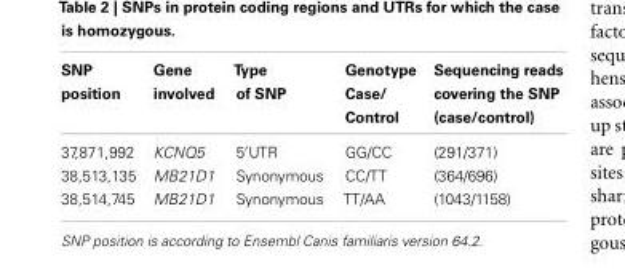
<table><thead><tr><td>SNP position</td><td>Gene involved</td><td>Type of SNP</td><td>Genotype Case/ Control</td><td>Sequencing reads covering the SNP (case/control)</td></tr></thead><tbody><tr><td>37,871,992</td><td>KCNQ5</td><td>5′UTR</td><td>GG/CC</td><td>(291/371)</td></tr><tr><td>38,513,135</td><td>MB21D1</td><td>Synonymous</td><td>CC/TT</td><td>(364/696)</td></tr><tr><td>38,514,745</td><td>MB21D1</td><td>Synonymous</td><td>TT/AA</td><td>(1043/1158)</td></tr></tbody></table>